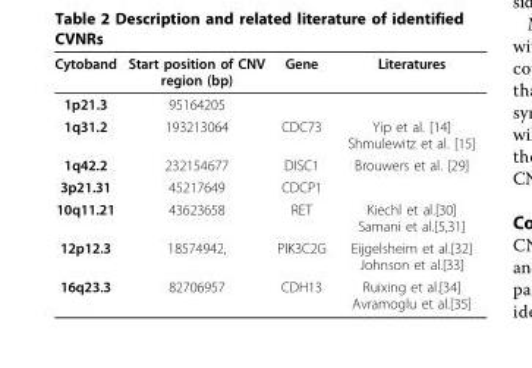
<table><thead><tr><td>Cytoband</td><td>Start position of CNV region (bp)</td><td>Gene</td><td>Literatures</td></tr></thead><tbody><tr><td>1p21.3</td><td>95164205</td><td></td><td></td></tr><tr><td>1q31.2</td><td>193213064</td><td>CDC73</td><td>Yip et al. [14] Shmulewitz et al. [15]</td></tr><tr><td>1q42.2</td><td>232154677</td><td>DISC1</td><td>Brouwers et al. [29]</td></tr><tr><td>3p21.31</td><td>45217649</td><td>CDCP1</td><td></td></tr><tr><td>10q11.21</td><td>43623658</td><td>RET</td><td>Kiechl et al.[30] Samani et al.[5,31]</td></tr><tr><td>12p12.3</td><td>18574942,</td><td>PIK3C2G</td><td>Eijgelsheim et al.[32] Johnson et al.[33]</td></tr><tr><td>16q23.3</td><td>82706957</td><td>CDH13</td><td>Ruixing et al.[34] Avramoglu et al.[35]</td></tr></tbody></table>